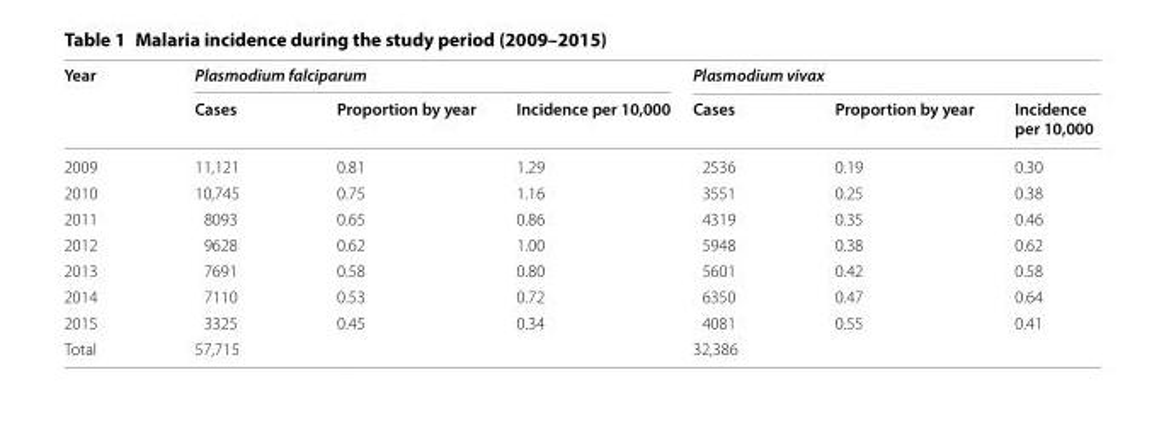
<table><thead><tr><td rowspan="2">Year</td><td colspan="3">Plasmodium falciparum</td><td colspan="3">Plasmodium vivax</td></tr><tr><td>Cases</td><td>Proportion by year</td><td>Incidence per 10,000</td><td>Cases</td><td>Proportion by year</td><td>Incidence per 10,000</td></tr></thead><tbody><tr><td>2009</td><td>11,121</td><td>0.81</td><td>1.29</td><td>2536</td><td>0.19</td><td>0.30</td></tr><tr><td>2010</td><td>10,745</td><td>0.75</td><td>1.16</td><td>3551</td><td>0.25</td><td>0.38</td></tr><tr><td>2011</td><td>8093</td><td>0.65</td><td>0.86</td><td>4319</td><td>0.35</td><td>0.46</td></tr><tr><td>2012</td><td>9628</td><td>0.62</td><td>1.00</td><td>5948</td><td>0.38</td><td>0.62</td></tr><tr><td>2013</td><td>7691</td><td>0.58</td><td>0.80</td><td>5601</td><td>0.42</td><td>0.58</td></tr><tr><td>2014</td><td>7110</td><td>0.53</td><td>0.72</td><td>6350</td><td>0.47</td><td>0.64</td></tr><tr><td>2015</td><td>3325</td><td>0.45</td><td>0.34</td><td>4081</td><td>0.55</td><td>0.41</td></tr><tr><td>Total</td><td>57,715</td><td></td><td></td><td>32,386</td><td></td><td></td></tr></tbody></table>